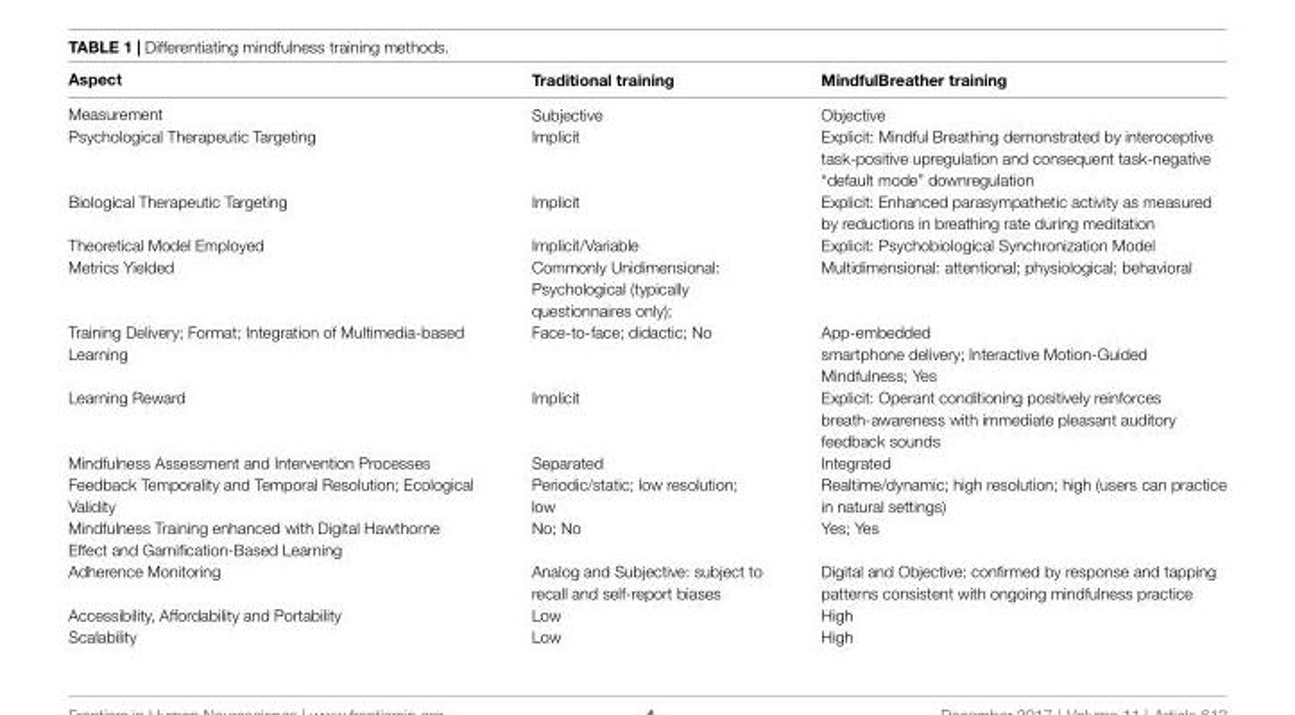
<table><thead><tr><td>Aspect</td><td>Traditional training</td><td>MindfulBreather training</td></tr></thead><tbody><tr><td>Measurement</td><td>Subjective</td><td>Objective</td></tr><tr><td>Psychological Therapeutic Targeting</td><td>Implicit</td><td>Explicit: Mindful Breathing demonstrated by interoceptive task-positive upregulation and consequent task-negative “default mode” downregulation</td></tr><tr><td>Biological Therapeutic Targeting</td><td>Implicit</td><td>Explicit: Enhanced parasympathetic activity as measured by reductions in breathing rate during meditation</td></tr><tr><td>Theoretical Model Employed</td><td>Implicit/Variable</td><td>Explicit: Psychobiological Synchronization Model</td></tr><tr><td>Metrics Yielded</td><td>Commonly Unidimensional: Psychological (typically questionnaires only);</td><td>Multidimensional: attentional; physiological; behavioral</td></tr><tr><td>Training Delivery; Format; Integration of Multimedia-based Learning</td><td>Face-to-face; didactic; No</td><td>App-embedded smartphone delivery; Interactive Motion-Guided Mindfulness; Yes</td></tr><tr><td>Learning Reward</td><td>Implicit</td><td>Explicit: Operant conditioning positively reinforces breath-awareness with immediate pleasant auditory feedback sounds</td></tr><tr><td>Mindfulness Assessment and Intervention Processes</td><td>Separated</td><td>Integrated</td></tr><tr><td>Feedback Temporality and Temporal Resolution; Ecological Validity</td><td>Periodic/static; low resolution; low</td><td>Realtime/dynamic; high resolution; high (users can practice in natural settings)</td></tr><tr><td>Mindfulness Training enhanced with Digital Hawthorne Effect and Gamification-Based Learning</td><td>No; No</td><td>Yes; Yes</td></tr><tr><td>Adherence Monitoring</td><td>Analog and Subjective: subject to recall and self-report biases</td><td>Digital and Objective: confirmed by response and tapping patterns consistent with ongoing mindfulness practice</td></tr><tr><td>Accessibility, Affordability and Portability</td><td>Low</td><td>High</td></tr><tr><td>Scalability</td><td>Low</td><td>High</td></tr></tbody></table>